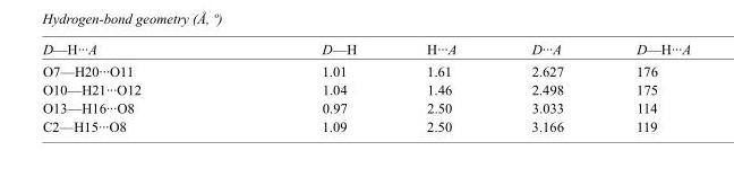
<table><tbody><tr><td>D—H···A</td><td>D—H</td><td>H···A</td><td>D···A</td><td>D—H···A</td></tr><tr><td>O7—H20···O11</td><td>1.01</td><td>1.61</td><td>2.627</td><td>176</td></tr><tr><td>O10—H21···O12</td><td>1.04</td><td>1.46</td><td>2.498</td><td>175</td></tr><tr><td>O13—H16···O8</td><td>0.97</td><td>2.50</td><td>3.033</td><td>114</td></tr><tr><td>C2—H15···O8</td><td>1.09</td><td>2.50</td><td>3.166</td><td>119</td></tr></tbody></table>